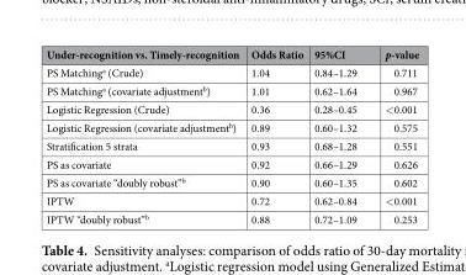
<table><thead><tr><td>Under-recognition vs. Timely-recognition</td><td>Odds Ratio</td><td>95%CI</td><td>p-value</td></tr></thead><tbody><tr><td>PS Matching<sup>a</sup> (Crude)</td><td>1.04</td><td>0.84–1.29</td><td>0.711</td></tr><tr><td>PS Matching<sup>a</sup> (covariate adjustment<sup>b</sup>)</td><td>1.01</td><td>0.62–1.64</td><td>0.967</td></tr><tr><td>Logistic Regression (Crude)</td><td>0.36</td><td>0.28–0.45</td><td>&lt;0.001</td></tr><tr><td>Logistic Regression (covariate adjustment<sup>b</sup>)</td><td>0.89</td><td>0.60–1.32</td><td>0.575</td></tr><tr><td>Stratification 5 strata</td><td>0.93</td><td>0.68–1.28</td><td>0.551</td></tr><tr><td>PS as covariate</td><td>0.92</td><td>0.66–1.29</td><td>0.626</td></tr><tr><td>PS as covariate “doubly robust”<sup>b</sup></td><td>0.90</td><td>0.60–1.35</td><td>0.602</td></tr><tr><td>IPTW</td><td>0.72</td><td>0.62–0.84</td><td>&lt;0.001</td></tr><tr><td>IPTW “doubly robust”<sup>b</sup></td><td>0.88</td><td>0.72–1.09</td><td>0.253</td></tr></tbody></table>